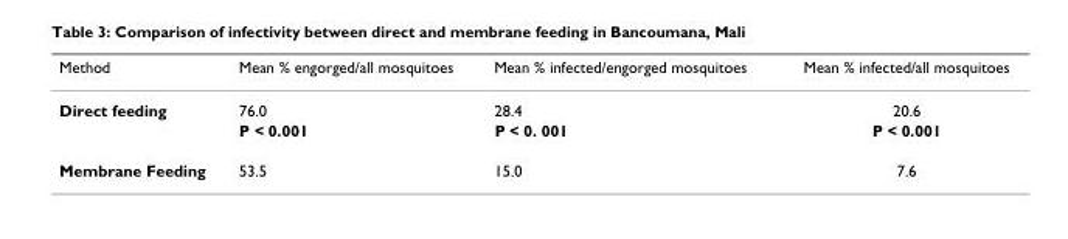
<table><thead><tr><td>Method</td><td>Mean % engorged/all mosquitoes</td><td>Mean % infected/engorged mosquitoes</td><td>Mean % infected/all mosquitoes</td></tr></thead><tbody><tr><td rowspan="2">Direct feeding</td><td>76.0</td><td>28.4</td><td>20.6</td></tr><tr><td>P &lt; 0.001</td><td>P &lt; 0. 001</td><td>P &lt; 0.001</td></tr><tr><td>Membrane Feeding</td><td>53.5</td><td>15.0</td><td>7.6</td></tr></tbody></table>